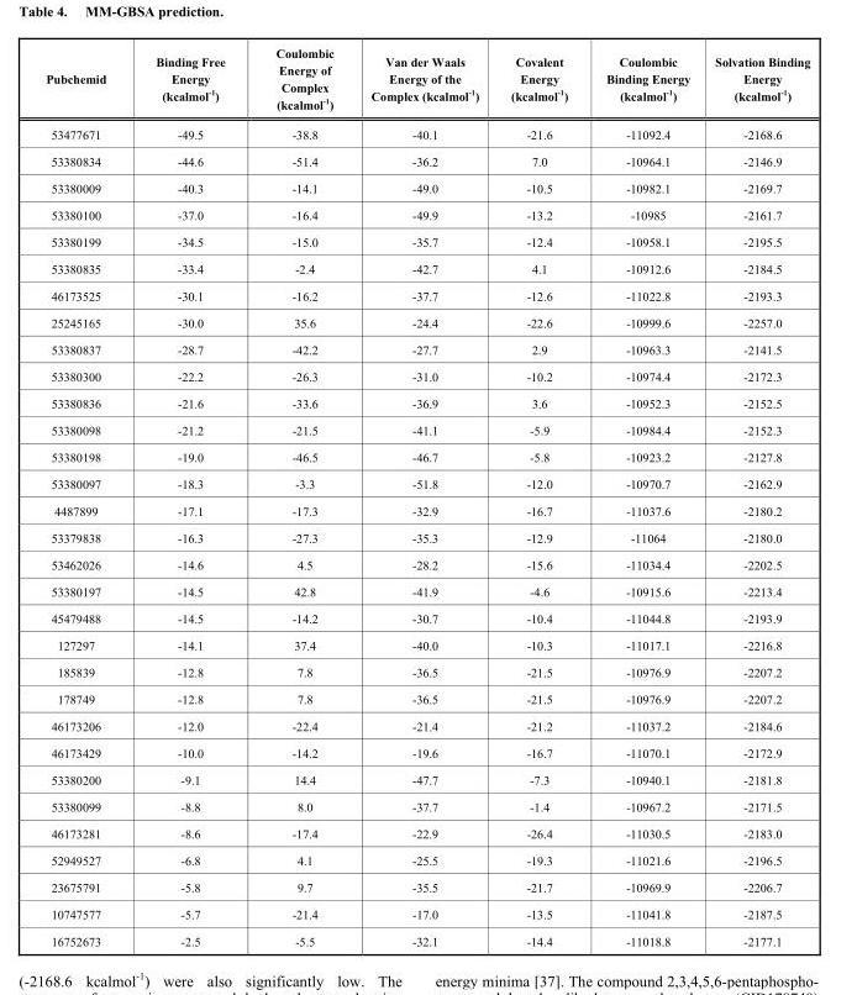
<table><thead><tr><td>Pubchemid</td><td>Binding Free Energy (kcalmol-1)</td><td>Coulombic Energy of Complex (kcalmol-1)</td><td>Van der Waals Energy of the Complex (kcalmol-1)</td><td>Covalent Energy (kcalmol-1)</td><td>Coulombic Binding Energy (kcalmol-1)</td><td>Solvation Binding Energy (kcalmol-1)</td></tr></thead><tbody><tr><td>53477671</td><td>-49.5</td><td>-38.8</td><td>-40.1</td><td>-21.6</td><td>-11092.4</td><td>-2168.6</td></tr><tr><td>53380834</td><td>-44.6</td><td>-51.4</td><td>-36.2</td><td>7.0</td><td>-10964.1</td><td>-2146.9</td></tr><tr><td>53380009</td><td>-40.3</td><td>-14.1</td><td>-49.0</td><td>-10.5</td><td>-10982.1</td><td>-2169.7</td></tr><tr><td>53380100</td><td>-37.0</td><td>-16.4</td><td>-49.9</td><td>-13.2</td><td>-10985</td><td>-2161.7</td></tr><tr><td>53380199</td><td>-34.5</td><td>-15.0</td><td>-35.7</td><td>-12.4</td><td>-10958.1</td><td>-2195.5</td></tr><tr><td>53380835</td><td>-33.4</td><td>-2.4</td><td>-42.7</td><td>4.1</td><td>-10912.6</td><td>-2184.5</td></tr><tr><td>46173525</td><td>-30.1</td><td>-16.2</td><td>-37.7</td><td>-12.6</td><td>-11022.8</td><td>-2193.3</td></tr><tr><td>25245165</td><td>-30.0</td><td>35.6</td><td>-24.4</td><td>-22.6</td><td>-10999.6</td><td>-2257.0</td></tr><tr><td>53380837</td><td>-28.7</td><td>-42.2</td><td>-27.7</td><td>2.9</td><td>-10963.3</td><td>-2141.5</td></tr><tr><td>53380300</td><td>-22.2</td><td>-26.3</td><td>-31.0</td><td>-10.2</td><td>-10974.4</td><td>-2172.3</td></tr><tr><td>53380836</td><td>-21.6</td><td>-33.6</td><td>-36.9</td><td>3.6</td><td>-10952.3</td><td>-2152.5</td></tr><tr><td>53380098</td><td>-21.2</td><td>-21.5</td><td>-41.1</td><td>-5.9</td><td>-10984.4</td><td>-2152.3</td></tr><tr><td>53380198</td><td>-19.0</td><td>-46.5</td><td>-46.7</td><td>-5.8</td><td>-10923.2</td><td>-2127.8</td></tr><tr><td>53380097</td><td>-18.3</td><td>-3.3</td><td>-51.8</td><td>-12.0</td><td>-10970.7</td><td>-2162.9</td></tr><tr><td>4487899</td><td>-17.1</td><td>-17.3</td><td>-32.9</td><td>-16.7</td><td>-11037.6</td><td>-2180.2</td></tr><tr><td>53379838</td><td>-16.3</td><td>-27.3</td><td>-35.3</td><td>-12.9</td><td>-11064</td><td>-2180.0</td></tr><tr><td>53462026</td><td>-14.6</td><td>4.5</td><td>-28.2</td><td>-15.6</td><td>-11034.4</td><td>-2202.5</td></tr><tr><td>53380197</td><td>-14.5</td><td>42.8</td><td>-41.9</td><td>-4.6</td><td>-10915.6</td><td>-2213.4</td></tr><tr><td>45479488</td><td>-14.5</td><td>-14.2</td><td>-30.7</td><td>-10.4</td><td>-11044.8</td><td>-2193.9</td></tr><tr><td>127297</td><td>-14.1</td><td>37.4</td><td>-40.0</td><td>-10.3</td><td>-11017.1</td><td>-2216.8</td></tr><tr><td>185839</td><td>-12.8</td><td>7.8</td><td>-36.5</td><td>-21.5</td><td>-10976.9</td><td>-2207.2</td></tr><tr><td>178749</td><td>-12.8</td><td>7.8</td><td>-36.5</td><td>-21.5</td><td>-10976.9</td><td>-2207.2</td></tr><tr><td>46173206</td><td>-12.0</td><td>-22.4</td><td>-21.4</td><td>-21.2</td><td>-11037.2</td><td>-2184.6</td></tr><tr><td>46173429</td><td>-10.0</td><td>-14.2</td><td>-19.6</td><td>-16.7</td><td>-11070.1</td><td>-2172.9</td></tr><tr><td>53380200</td><td>-9.1</td><td>14.4</td><td>-47.7</td><td>-7.3</td><td>-10940.1</td><td>-2181.8</td></tr><tr><td>53380099</td><td>-8.8</td><td>8.0</td><td>-37.7</td><td>-1.4</td><td>-10967.2</td><td>-2171.5</td></tr><tr><td>46173281</td><td>-8.6</td><td>-17.4</td><td>-22.9</td><td>-26.4</td><td>-11030.5</td><td>-2183.0</td></tr><tr><td>52949527</td><td>-6.8</td><td>4.1</td><td>-25.5</td><td>-19.3</td><td>-11021.6</td><td>-2196.5</td></tr><tr><td>23675791</td><td>-5.8</td><td>9.7</td><td>-35.5</td><td>-21.7</td><td>-10969.9</td><td>-2206.7</td></tr><tr><td>10747577</td><td>-5.7</td><td>-21.4</td><td>-17.0</td><td>-13.5</td><td>-11041.8</td><td>-2187.5</td></tr><tr><td>16752673</td><td>-2.5</td><td>-5.5</td><td>-32.1</td><td>-14.4</td><td>-11018.8</td><td>-2177.1</td></tr></tbody></table>